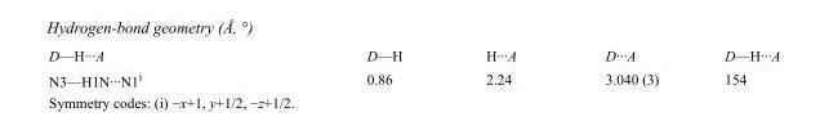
<table><tbody><tr><td>D—H···A</td><td>D—H</td><td>H···A</td><td>D···A</td><td>D—H···A</td></tr><tr><td>N3—H1N···N1<sup>i</sup></td><td>0.86</td><td>2.24</td><td>3.040 (3)</td><td>154</td></tr></tbody></table>